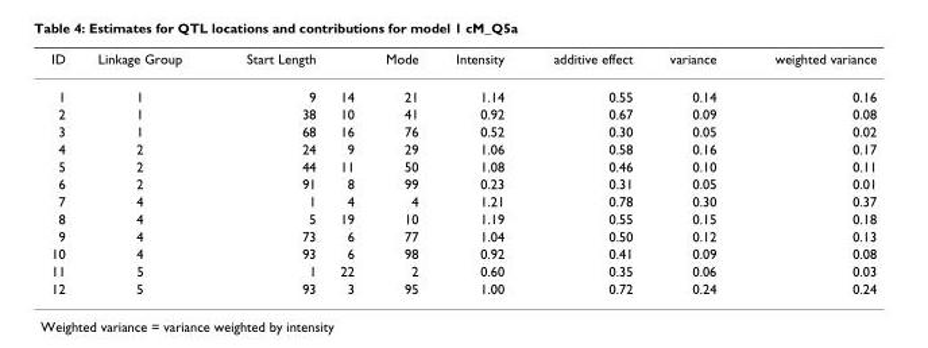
<table><thead><tr><td>ID</td><td>Linkage Group</td><td>Start Length</td><td></td><td>Mode</td><td>Intensity</td><td>additive effect</td><td>variance</td><td>weighted variance</td></tr></thead><tbody><tr><td>1</td><td>1</td><td>9</td><td>14</td><td>21</td><td>1.14</td><td>0.55</td><td>0.14</td><td>0.16</td></tr><tr><td>2</td><td>1</td><td>38</td><td>10</td><td>41</td><td>0.92</td><td>0.67</td><td>0.09</td><td>0.08</td></tr><tr><td>3</td><td>1</td><td>68</td><td>16</td><td>76</td><td>0.52</td><td>0.30</td><td>0.05</td><td>0.02</td></tr><tr><td>4</td><td>2</td><td>24</td><td>9</td><td>29</td><td>1.06</td><td>0.58</td><td>0.16</td><td>0.17</td></tr><tr><td>5</td><td>2</td><td>44</td><td>11</td><td>50</td><td>1.08</td><td>0.46</td><td>0.10</td><td>0.11</td></tr><tr><td>6</td><td>2</td><td>91</td><td>8</td><td>99</td><td>0.23</td><td>0.31</td><td>0.05</td><td>0.01</td></tr><tr><td>7</td><td>4</td><td>1</td><td>4</td><td>4</td><td>1.21</td><td>0.78</td><td>0.30</td><td>0.37</td></tr><tr><td>8</td><td>4</td><td>5</td><td>19</td><td>10</td><td>1.19</td><td>0.55</td><td>0.15</td><td>0.18</td></tr><tr><td>9</td><td>4</td><td>73</td><td>6</td><td>77</td><td>1.04</td><td>0.50</td><td>0.12</td><td>0.13</td></tr><tr><td>10</td><td>4</td><td>93</td><td>6</td><td>98</td><td>0.92</td><td>0.41</td><td>0.09</td><td>0.08</td></tr><tr><td>11</td><td>5</td><td>1</td><td>22</td><td>2</td><td>0.60</td><td>0.35</td><td>0.06</td><td>0.03</td></tr><tr><td>12</td><td>5</td><td>93</td><td>3</td><td>95</td><td>1.00</td><td>0.72</td><td>0.24</td><td>0.24</td></tr></tbody></table>